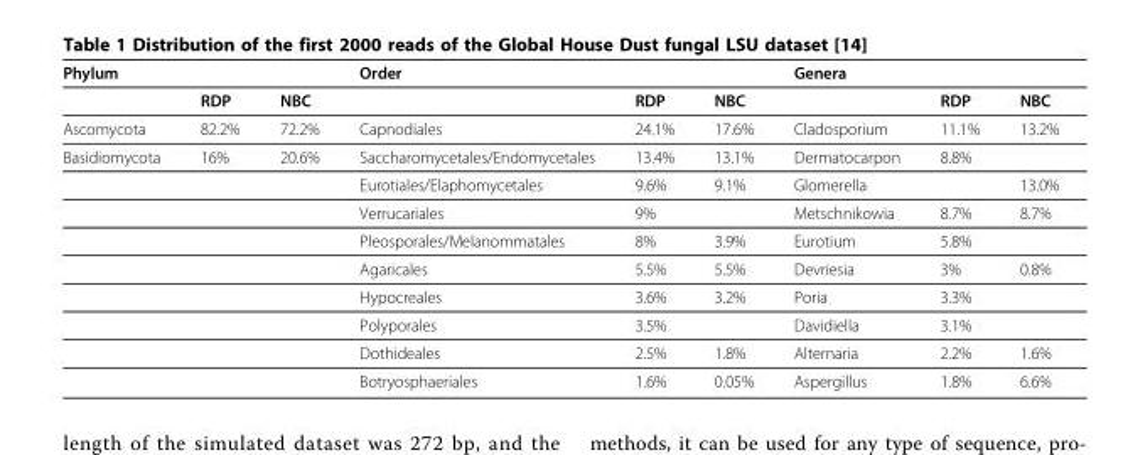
<table><thead><tr><td colspan="3">Phylum</td><td colspan="3">Order</td><td colspan="3">Genera</td></tr><tr><td></td><td>RDP</td><td>NBC</td><td></td><td>RDP</td><td>NBC</td><td></td><td>RDP</td><td>NBC</td></tr></thead><tbody><tr><td>Ascomycota</td><td>82.2%</td><td>72.2%</td><td>Capnodiales</td><td>24.1%</td><td>17.6%</td><td>Cladosporium</td><td>11.1%</td><td>13.2%</td></tr><tr><td rowspan="9">Basidiomycota</td><td>16%</td><td>20.6%</td><td>Saccharomycetales/Endomycetales</td><td>13.4%</td><td>13.1%</td><td>Dermatocarpon</td><td>8.8%</td><td></td></tr><tr><td></td><td></td><td>Eurotiales/Elaphomycetales</td><td>9.6%</td><td>9.1%</td><td>Glomerella</td><td></td><td>13.0%</td></tr><tr><td></td><td></td><td>Verrucariales</td><td>9%</td><td></td><td>Metschnikowia</td><td>8.7%</td><td>8.7%</td></tr><tr><td></td><td></td><td>Pleosporales/Melanommatales</td><td>8%</td><td>3.9%</td><td>Eurotium</td><td>5.8%</td><td></td></tr><tr><td></td><td></td><td>Agaricales</td><td>5.5%</td><td>5.5%</td><td>Devriesia</td><td>3%</td><td>0.8%</td></tr><tr><td></td><td></td><td>Hypocreales</td><td>3.6%</td><td>3.2%</td><td>Poria</td><td>3.3%</td><td></td></tr><tr><td></td><td></td><td>Polyporales</td><td>3.5%</td><td></td><td>Davidiella</td><td>3.1%</td><td></td></tr><tr><td></td><td></td><td>Dothideales</td><td>2.5%</td><td>1.8%</td><td>Alternaria</td><td>2.2%</td><td>1.6%</td></tr><tr><td></td><td></td><td>Botryosphaeriales</td><td>1.6%</td><td>0.05%</td><td>Aspergillus</td><td>1.8%</td><td>6.6%</td></tr></tbody></table>